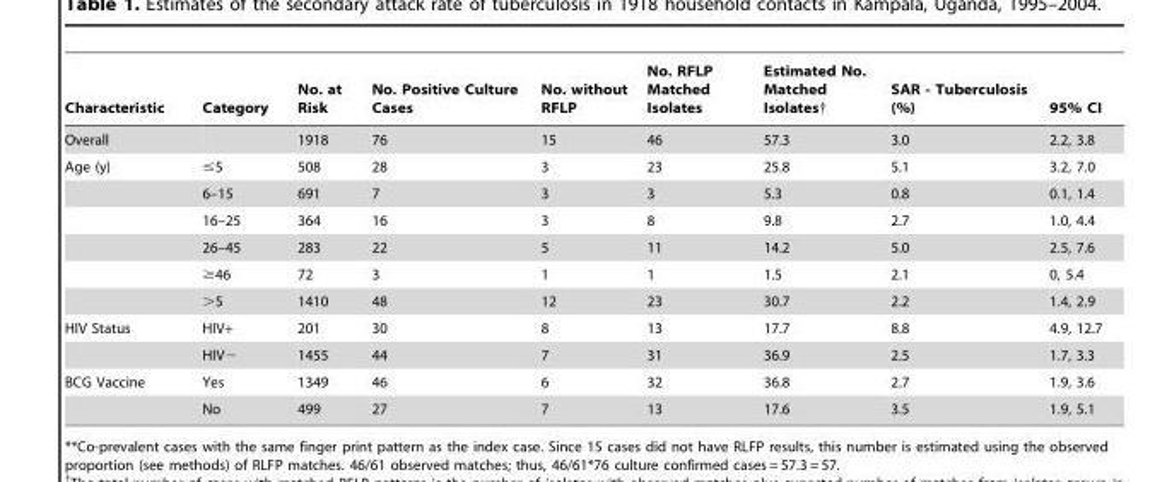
<table><thead><tr><td>Characteristic</td><td>Category</td><td>No. at Risk</td><td>No. Positive Culture Cases</td><td>No. without RFLP</td><td>No. RFLP Matched Isolates</td><td>Estimated No. Matched Isolates†</td><td>SAR - Tuberculosis (%)</td><td>95% CI</td></tr></thead><tbody><tr><td>Overall</td><td></td><td>1918</td><td>76</td><td>15</td><td>46</td><td>57.3</td><td>3.0</td><td>2.2, 3.8</td></tr><tr><td rowspan="6">Age (y)</td><td>≤5</td><td>508</td><td>28</td><td>3</td><td>23</td><td>25.8</td><td>5.1</td><td>3.2, 7.0</td></tr><tr><td>6–15</td><td>691</td><td>7</td><td>3</td><td>3</td><td>5.3</td><td>0.8</td><td>0.1, 1.4</td></tr><tr><td>16–25</td><td>364</td><td>16</td><td>3</td><td>8</td><td>9.8</td><td>2.7</td><td>1.0, 4.4</td></tr><tr><td>26–45</td><td>283</td><td>22</td><td>5</td><td>11</td><td>14.2</td><td>5.0</td><td>2.5, 7.6</td></tr><tr><td>≥46</td><td>72</td><td>3</td><td>1</td><td>1</td><td>1.5</td><td>2.1</td><td>0, 5.4</td></tr><tr><td>&gt;5</td><td>1410</td><td>48</td><td>12</td><td>23</td><td>30.7</td><td>2.2</td><td>1.4, 2.9</td></tr><tr><td rowspan="2">HIV Status</td><td>HIV+</td><td>201</td><td>30</td><td>8</td><td>13</td><td>17.7</td><td>8.8</td><td>4.9, 12.7</td></tr><tr><td>HIV−</td><td>1455</td><td>44</td><td>7</td><td>31</td><td>36.9</td><td>2.5</td><td>1.7, 3.3</td></tr><tr><td rowspan="2">BCG Vaccine</td><td>Yes</td><td>1349</td><td>46</td><td>6</td><td>32</td><td>36.8</td><td>2.7</td><td>1.9, 3.6</td></tr><tr><td>No</td><td>499</td><td>27</td><td>7</td><td>13</td><td>17.6</td><td>3.5</td><td>1.9, 5.1</td></tr></tbody></table>